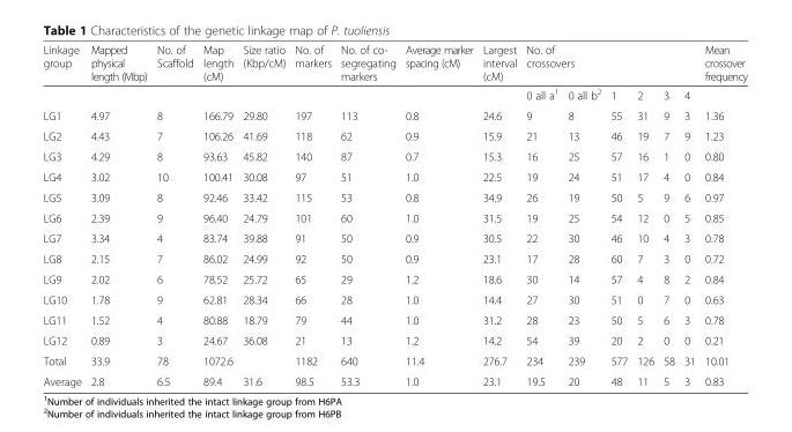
<table><thead><tr><td rowspan="2">Linkage group</td><td rowspan="2">Mapped physical length (Mbp)</td><td rowspan="2">No. of Scaffold</td><td rowspan="2">Map length (cM)</td><td rowspan="2">Size ratio (Kbp/cM)</td><td rowspan="2">No. of markers</td><td rowspan="2">No. of co- segregating markers</td><td rowspan="2">Average marker spacing (cM)</td><td rowspan="2">Largest interval (cM)</td><td colspan="6">No. of crossovers</td><td rowspan="2">Mean crossover frequency</td></tr><tr><td>0 all a<sup>1</sup></td><td>0 all b<sup>2</sup></td><td>1</td><td>2</td><td>3</td><td>4</td></tr></thead><tbody><tr><td>LG1</td><td>4.97</td><td>8</td><td>166.79</td><td>29.80</td><td>197</td><td>113</td><td>0.8</td><td>24.6</td><td>9</td><td>8</td><td>55</td><td>31</td><td>9</td><td>3</td><td>1.36</td></tr><tr><td>LG2</td><td>4.43</td><td>7</td><td>106.26</td><td>41.69</td><td>118</td><td>62</td><td>0.9</td><td>15.9</td><td>21</td><td>13</td><td>46</td><td>19</td><td>7</td><td>9</td><td>1.23</td></tr><tr><td>LG3</td><td>4.29</td><td>8</td><td>93.63</td><td>45.82</td><td>140</td><td>87</td><td>0.7</td><td>15.3</td><td>16</td><td>25</td><td>57</td><td>16</td><td>1</td><td>0</td><td>0.80</td></tr><tr><td>LG4</td><td>3.02</td><td>10</td><td>100.41</td><td>30.08</td><td>97</td><td>51</td><td>1.0</td><td>22.5</td><td>19</td><td>24</td><td>51</td><td>17</td><td>4</td><td>0</td><td>0.84</td></tr><tr><td>LG5</td><td>3.09</td><td>8</td><td>92.46</td><td>33.42</td><td>115</td><td>53</td><td>0.8</td><td>34.9</td><td>26</td><td>19</td><td>50</td><td>5</td><td>9</td><td>6</td><td>0.97</td></tr><tr><td>LG6</td><td>2.39</td><td>9</td><td>96.40</td><td>24.79</td><td>101</td><td>60</td><td>1.0</td><td>31.5</td><td>19</td><td>25</td><td>54</td><td>12</td><td>0</td><td>5</td><td>0.85</td></tr><tr><td>LG7</td><td>3.34</td><td>4</td><td>83.74</td><td>39.88</td><td>91</td><td>50</td><td>0.9</td><td>30.5</td><td>22</td><td>30</td><td>46</td><td>10</td><td>4</td><td>3</td><td>0.78</td></tr><tr><td>LG8</td><td>2.15</td><td>7</td><td>86.02</td><td>24.99</td><td>92</td><td>50</td><td>0.9</td><td>23.1</td><td>17</td><td>28</td><td>60</td><td>7</td><td>3</td><td>0</td><td>0.72</td></tr><tr><td>LG9</td><td>2.02</td><td>6</td><td>78.52</td><td>25.72</td><td>65</td><td>29</td><td>1.2</td><td>18.6</td><td>30</td><td>14</td><td>57</td><td>4</td><td>8</td><td>2</td><td>0.84</td></tr><tr><td>LG10</td><td>1.78</td><td>9</td><td>62.81</td><td>28.34</td><td>66</td><td>28</td><td>1.0</td><td>14.4</td><td>27</td><td>30</td><td>51</td><td>0</td><td>7</td><td>0</td><td>0.63</td></tr><tr><td>LG11</td><td>1.52</td><td>4</td><td>80.88</td><td>18.79</td><td>79</td><td>44</td><td>1.0</td><td>31.2</td><td>28</td><td>23</td><td>50</td><td>5</td><td>6</td><td>3</td><td>0.78</td></tr><tr><td>LG12</td><td>0.89</td><td>3</td><td>24.67</td><td>36.08</td><td>21</td><td>13</td><td>1.2</td><td>14.2</td><td>54</td><td>39</td><td>20</td><td>2</td><td>0</td><td>0</td><td>0.21</td></tr><tr><td>Total</td><td>33.9</td><td>78</td><td>1072.6</td><td></td><td>1182</td><td>640</td><td>11.4</td><td>276.7</td><td>234</td><td>239</td><td>577</td><td>126</td><td>58</td><td>31</td><td>10.01</td></tr><tr><td>Average</td><td>2.8</td><td>6.5</td><td>89.4</td><td>31.6</td><td>98.5</td><td>53.3</td><td>1.0</td><td>23.1</td><td>19.5</td><td>20</td><td>48</td><td>11</td><td>5</td><td>3</td><td>0.83</td></tr></tbody></table>